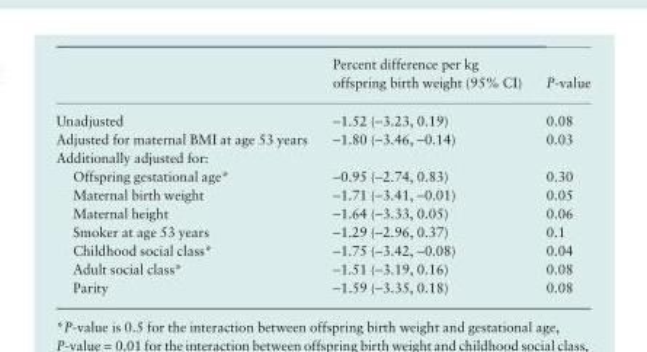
<table><thead><tr><td></td><td>Percent difference per kg offspring birth weight (95% CI)</td><td>P-value</td></tr></thead><tbody><tr><td>Unadjusted</td><td>−1.52 (−3.23, 0.19)</td><td>0.08</td></tr><tr><td>Adjusted for maternal BMI at age 53 years</td><td>−1.80 (−3.46, −0.14)</td><td>0.03</td></tr><tr><td colspan="3">Additionally adjusted for:</td></tr><tr><td>Offspring gestational age*</td><td>−0.95 (−2.74, 0.83)</td><td>0.30</td></tr><tr><td>Maternal birth weight</td><td>−1.71 (−3.41, −0.01)</td><td>0.05</td></tr><tr><td>Maternal height</td><td>−1.64 (−3.33, 0.05)</td><td>0.06</td></tr><tr><td>Smoker at age 53 years</td><td>−1.29 (−2.96, 0.37)</td><td>0.1</td></tr><tr><td>Childhood social class*</td><td>−1.75 (−3.42, −0.08)</td><td>0.04</td></tr><tr><td>Adult social class*</td><td>−1.51 (−3.19, 0.16)</td><td>0.08</td></tr><tr><td>Parity</td><td>−1.59 (−3.35, 0.18)</td><td>0.08</td></tr></tbody></table>